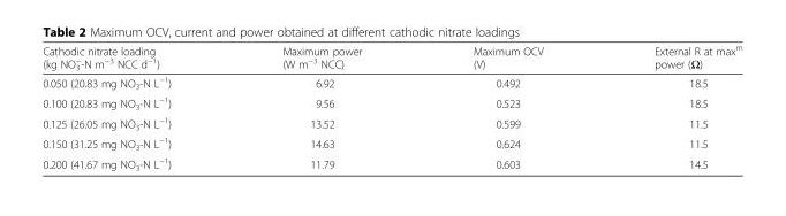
<table><thead><tr><td>Cathodic nitrate loading (kg NO<sub>3</sub> <sup>−</sup>-N m<sup>−3</sup> NCC d<sup>−1</sup>)</td><td>Maximum power (W m<sup>−3</sup> NCC)</td><td>Maximum OCV (V)</td><td>External R at max<sup>m</sup> power (Ω)</td></tr></thead><tbody><tr><td>0.050 (20.83 mg NO<sub>3</sub>-N L<sup>−1</sup>)</td><td>6.92</td><td>0.492</td><td>18.5</td></tr><tr><td>0.100 (20.83 mg NO<sub>3</sub>-N L<sup>−1</sup>)</td><td>9.56</td><td>0.523</td><td>18.5</td></tr><tr><td>0.125 (26.05 mg NO<sub>3</sub>-N L<sup>−1</sup>)</td><td>13.52</td><td>0.599</td><td>11.5</td></tr><tr><td>0.150 (31.25 mg NO<sub>3</sub>-N L<sup>−1</sup>)</td><td>14.63</td><td>0.624</td><td>11.5</td></tr><tr><td>0.200 (41.67 mg NO<sub>3</sub>-N L<sup>−1</sup>)</td><td>11.79</td><td>0.603</td><td>14.5</td></tr></tbody></table>